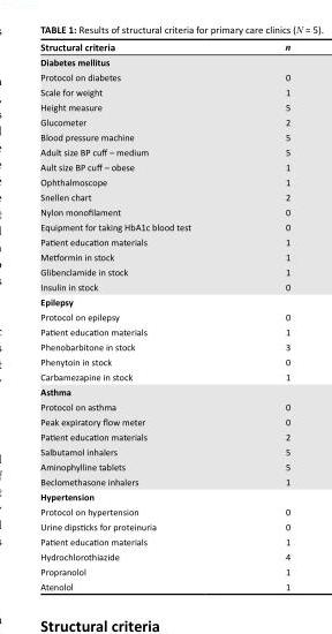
<table><thead><tr><td>Structural criteria</td><td>n</td></tr></thead><tbody><tr><td colspan="2">Diabetes mellitus</td></tr><tr><td>Protocol on diabetes</td><td>0</td></tr><tr><td>Scale for weight</td><td>1</td></tr><tr><td>Height measure</td><td>5</td></tr><tr><td>Glucometer</td><td>2</td></tr><tr><td>Blood pressure machine</td><td>5</td></tr><tr><td>Adult size BP cuff – medium</td><td>5</td></tr><tr><td>Ault size BP cuff – obese</td><td>1</td></tr><tr><td>Ophthalmoscope</td><td>1</td></tr><tr><td>Snellen chart</td><td>2</td></tr><tr><td>Nylon monofilament</td><td>0</td></tr><tr><td>Equipment for taking HbA1c blood test</td><td>0</td></tr><tr><td>Patient education materials</td><td>1</td></tr><tr><td>Metformin in stock</td><td>1</td></tr><tr><td>Glibenclamide in stock</td><td>1</td></tr><tr><td>Insulin in stock</td><td>0</td></tr><tr><td colspan="2">Epilepsy</td></tr><tr><td>Protocol on epilepsy</td><td>0</td></tr><tr><td>Patient education materials</td><td>1</td></tr><tr><td>Phenobarbitone in stock</td><td>3</td></tr><tr><td>Phenytoin in stock</td><td>0</td></tr><tr><td>Carbamezapine in stock</td><td>1</td></tr><tr><td colspan="2">Asthma</td></tr><tr><td>Protocol on asthma</td><td>0</td></tr><tr><td>Peak expiratory flow meter</td><td>0</td></tr><tr><td>Patient education materials</td><td>2</td></tr><tr><td>Salbutamol inhalers</td><td>5</td></tr><tr><td>Aminophylline tablets</td><td>5</td></tr><tr><td>Beclomethasone inhalers</td><td>1</td></tr><tr><td colspan="2">Hypertension</td></tr><tr><td>Protocol on hypertension</td><td>0</td></tr><tr><td>Urine dipsticks for proteinuria</td><td>0</td></tr><tr><td>Patient education materials</td><td>1</td></tr><tr><td>Hydrochlorothiazide</td><td>4</td></tr><tr><td>Propranolol</td><td>1</td></tr><tr><td>Atenolol</td><td>1</td></tr></tbody></table>